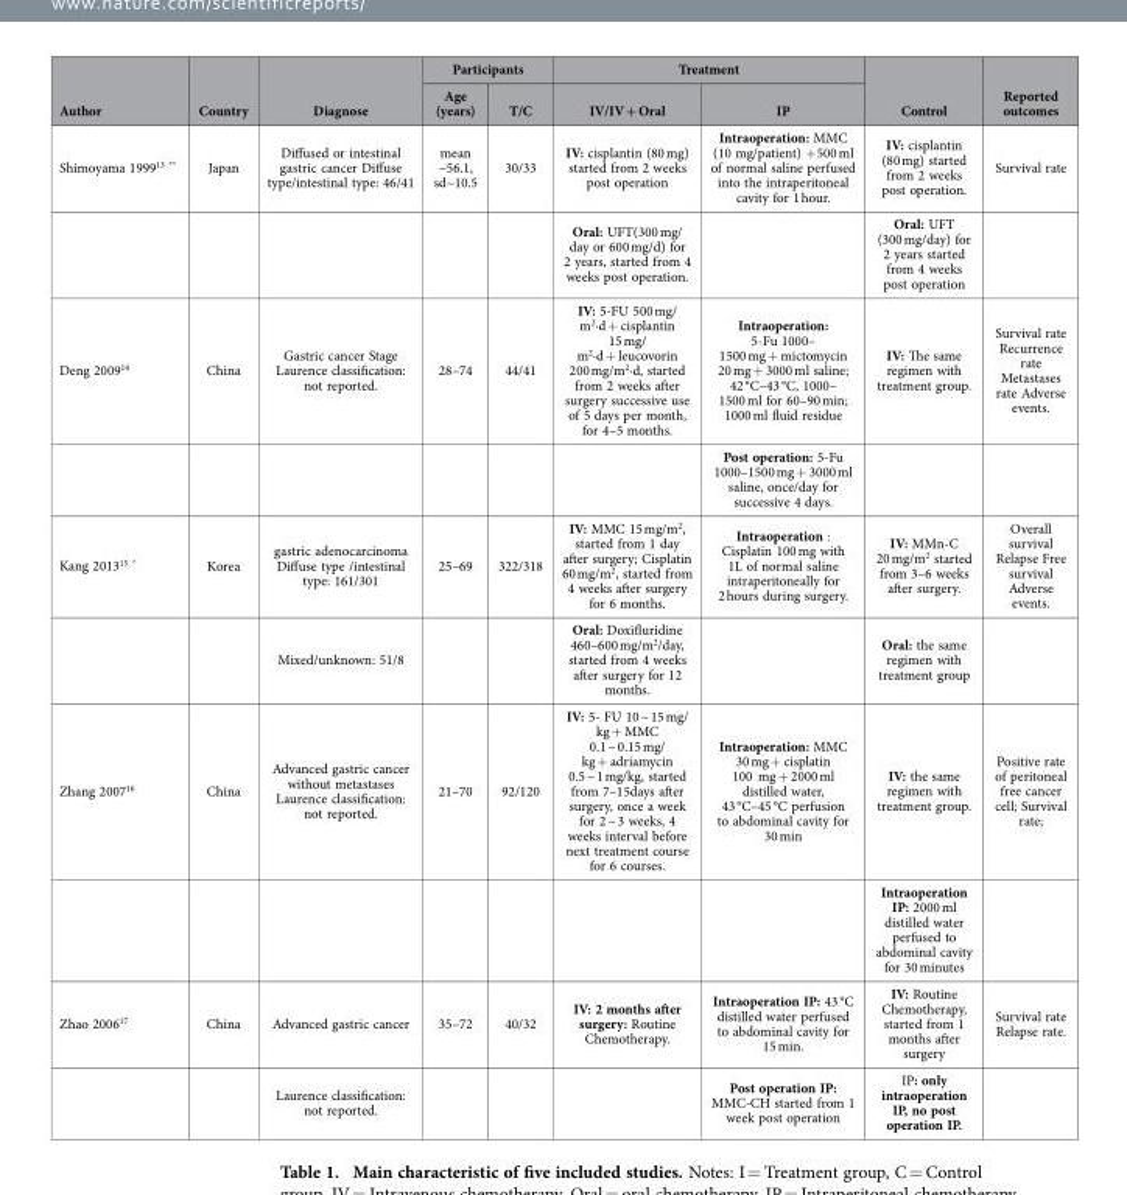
<table><thead><tr><td rowspan="2">Author</td><td rowspan="2">Country</td><td rowspan="2">Diagnose</td><td colspan="2">Participants</td><td colspan="2">Treatment</td><td rowspan="2">Control</td><td rowspan="2">Reported outcomes</td></tr><tr><td>Age (years)</td><td>T/C</td><td>IV/IV + Oral</td><td>IP</td></tr></thead><tbody><tr><td rowspan="2">Shimoyama 1999<sup>13</sup> **</td><td>Japan</td><td>Diffused or intestinal gastric cancer Diffuse type/intestinal type: 46/41</td><td>mean ~56.1, sd~10.5</td><td>30/33</td><td>IV: cisplantin (80 mg) started from 2 weeks post operation</td><td>Intraoperation: MMC (10 mg/patient) + 500 ml of normal saline perfused into the intraperitoneal cavity for 1 hour.</td><td>IV: cisplantin (80 mg) started from 2 weeks post operation.</td><td>Survival rate</td></tr><tr><td></td><td></td><td></td><td></td><td>Oral: UFT(300 mg/ day or 600 mg/d) for 2 years, started from 4 weeks post operation.</td><td></td><td>Oral: UFT (300 mg/day) for 2 years started from 4 weeks post operation</td><td></td></tr><tr><td rowspan="2">Deng 2009<sup>14</sup></td><td>China</td><td>Gastric cancer Stage Laurence classification: not reported.</td><td>28–74</td><td>44/41</td><td>IV: 5-FU 500 mg/ m<sup>2</sup>·d + cisplantin 15 mg/ m<sup>2</sup>·d + leucovorin 200 mg/m<sup>2</sup>·d, started from 2 weeks after surgery successive use of 5 days per month, for 4–5 months.</td><td>Intraoperation: 5-Fu 1000– 1500 mg + mictomycin 20 mg + 3000 ml saline; 42 °C–43 °C, 1000– 1500 ml for 60–90 min; 1000 ml fluid residue</td><td>IV: The same regimen with treatment group.</td><td>Survival rate Recurrence rate Metastases rate Adverse events.</td></tr><tr><td></td><td></td><td></td><td></td><td></td><td>Post operation: 5-Fu 1000–1500 mg + 3000 ml saline, once/day for successive 4 days.</td><td></td><td></td></tr><tr><td rowspan="2">Kang 2013<sup>15</sup> *</td><td>Korea</td><td>gastric adenocarcinoma Diffuse type /intestinal type: 161/301</td><td>25–69</td><td>322/318</td><td>IV: MMC 15 mg/m<sup>2</sup>, started from 1 day after surgery; Cisplatin 60 mg/m<sup>2</sup>, started from 4 weeks after surgery for 6 months.</td><td>Intraoperation : Cisplatin 100 mg with 1L of normal saline intraperitoneally for 2 hours during surgery.</td><td>IV: MMn-C 20 mg/m<sup>2</sup> started from 3–6 weeks after surgery.</td><td>Overall survival Relapse Free survival Adverse events.</td></tr><tr><td></td><td>Mixed/unknown: 51/8</td><td></td><td></td><td>Oral: Doxifluridine 460–600 mg/m<sup>2</sup>/day, started from 4 weeks after surgery for 12 months.</td><td></td><td>Oral: the same regimen with treatment group</td><td></td></tr><tr><td rowspan="2">Zhang 2007<sup>16</sup></td><td>China</td><td>Advanced gastric cancer without metastases Laurence classification: not reported.</td><td>21–70</td><td>92/120</td><td>IV: 5- FU 10 ~ 15 mg/ kg + MMC 0.1 ~ 0.15 mg/ kg + adriamycin 0.5 ~ 1 mg/kg, started from 7–15days after surgery, once a week for 2 ~ 3 weeks, 4 weeks interval before next treatment course for 6 courses.</td><td>Intraoperation: MMC 30 mg + cisplatin 100 mg + 2000 ml distilled water, 43 °C–45 °C perfusion to abdominal cavity for 30 min</td><td>IV: the same regimen with treatment group.</td><td>Positive rate of peritoneal free cancer cell; Survival rate;</td></tr><tr><td></td><td></td><td></td><td></td><td></td><td></td><td>Intraoperation IP: 2000 ml distilled water perfused to abdominal cavity for 30 minutes</td><td></td></tr><tr><td rowspan="2">Zhao 2006<sup>17</sup></td><td>China</td><td>Advanced gastric cancer</td><td>35–72</td><td>40/32</td><td>IV: 2 months after surgery: Routine Chemotherapy.</td><td>Intraoperation IP: 43 °C distilled water perfused to abdominal cavity for 15 min.</td><td>IV: Routine Chemotherapy, started from 1 months after surgery</td><td>Survival rate Relapse rate.</td></tr><tr><td></td><td>Laurence classification: not reported.</td><td></td><td></td><td></td><td>Post operation IP: MMC-CH started from 1 week post operation</td><td>IP: only intraoperation IP, no post operation IP.</td><td></td></tr></tbody></table>